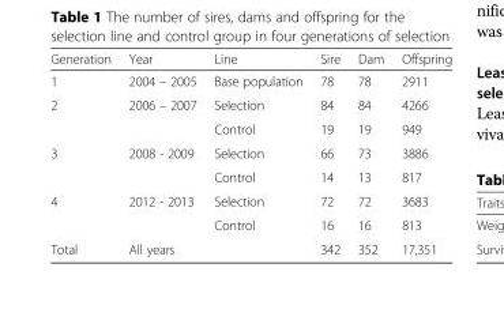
<table><thead><tr><td>Generation</td><td>Year</td><td>Line</td><td>Sire</td><td>Dam</td><td>Offspring</td></tr></thead><tbody><tr><td>1</td><td>2004 – 2005</td><td>Base population</td><td>78</td><td>78</td><td>2911</td></tr><tr><td rowspan="2">2</td><td>2006 – 2007</td><td>Selection</td><td>84</td><td>84</td><td>4266</td></tr><tr><td></td><td>Control</td><td>19</td><td>19</td><td>949</td></tr><tr><td rowspan="2">3</td><td>2008 - 2009</td><td>Selection</td><td>66</td><td>73</td><td>3886</td></tr><tr><td></td><td>Control</td><td>14</td><td>13</td><td>817</td></tr><tr><td rowspan="2">4</td><td>2012 - 2013</td><td>Selection</td><td>72</td><td>72</td><td>3683</td></tr><tr><td></td><td>Control</td><td>16</td><td>16</td><td>813</td></tr><tr><td>Total</td><td>All years</td><td></td><td>342</td><td>352</td><td>17,351</td></tr></tbody></table>